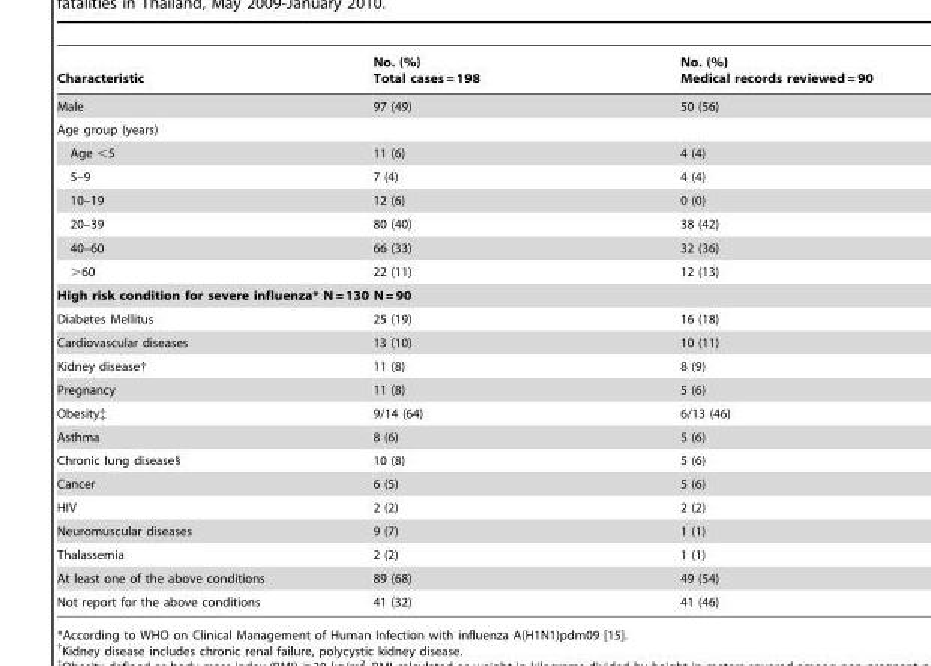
<table><thead><tr><td>Characteristic</td><td>No. (%) Total cases = 198</td><td>No. (%) Medical records reviewed = 90</td></tr></thead><tbody><tr><td>Male</td><td>97 (49)</td><td>50 (56)</td></tr><tr><td colspan="3">Age group (years)</td></tr><tr><td>Age &lt;5</td><td>11 (6)</td><td>4 (4)</td></tr><tr><td>5–9</td><td>7 (4)</td><td>4 (4)</td></tr><tr><td>10–19</td><td>12 (6)</td><td>0 (0)</td></tr><tr><td>20–39</td><td>80 (40)</td><td>38 (42)</td></tr><tr><td>40–60</td><td>66 (33)</td><td>32 (36)</td></tr><tr><td>&gt;60</td><td>22 (11)</td><td>12 (13)</td></tr><tr><td colspan="3">High risk condition for severe influenza* N = 130 N = 90</td></tr><tr><td>Diabetes Mellitus</td><td>25 (19)</td><td>16 (18)</td></tr><tr><td>Cardiovascular diseases</td><td>13 (10)</td><td>10 (11)</td></tr><tr><td>Kidney disease†</td><td>11 (8)</td><td>8 (9)</td></tr><tr><td>Pregnancy</td><td>11 (8)</td><td>5 (6)</td></tr><tr><td>Obesity‡</td><td>9/14 (64)</td><td>6/13 (46)</td></tr><tr><td>Asthma</td><td>8 (6)</td><td>5 (6)</td></tr><tr><td>Chronic lung disease§</td><td>10 (8)</td><td>5 (6)</td></tr><tr><td>Cancer</td><td>6 (5)</td><td>5 (6)</td></tr><tr><td>HIV</td><td>2 (2)</td><td>2 (2)</td></tr><tr><td>Neuromuscular diseases</td><td>9 (7)</td><td>1 (1)</td></tr><tr><td>Thalassemia</td><td>2 (2)</td><td>1 (1)</td></tr><tr><td>At least one of the above conditions</td><td>89 (68)</td><td>49 (54)</td></tr><tr><td>Not report for the above conditions</td><td>41 (32)</td><td>41 (46)</td></tr></tbody></table>